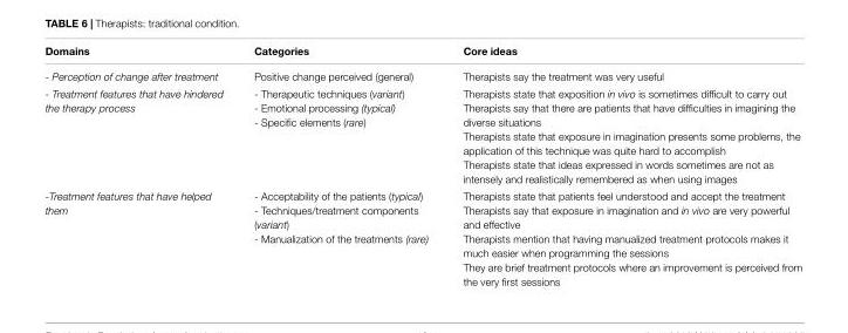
<table><thead><tr><td>Domains</td><td>Categories</td><td>Core ideas</td></tr></thead><tbody><tr><td>- Perception of change after treatment</td><td>Positive change perceived (general)</td><td>Therapists say the treatment was very useful</td></tr><tr><td>- Treatment features that have hindered the therapy process</td><td>- Therapeutic techniques (variant) - Emotional processing (typical) - Specific elements (rare)</td><td>Therapists state that exposition in vivo is sometimes difficult to carry out Therapists say that there are patients that have difficulties in imagining the diverse situations Therapists state that exposure in imagination presents some problems, the application of this technique was quite hard to accomplish Therapists state that ideas expressed in words sometimes are not as intensely and realistically remembered as when using images</td></tr><tr><td>-Treatment features that have helped them</td><td>- Acceptability of the patients (typical) - Techniques/treatment components (variant) - Manualization of the treatments (rare)</td><td>Therapists state that patients feel understood and accept the treatment Therapists say that exposure in imagination and in vivo are very powerful and effective Therapists mention that having manualized treatment protocols makes it much easier when programming the sessions They are brief treatment protocols where an improvement is perceived from the very first sessions</td></tr></tbody></table>